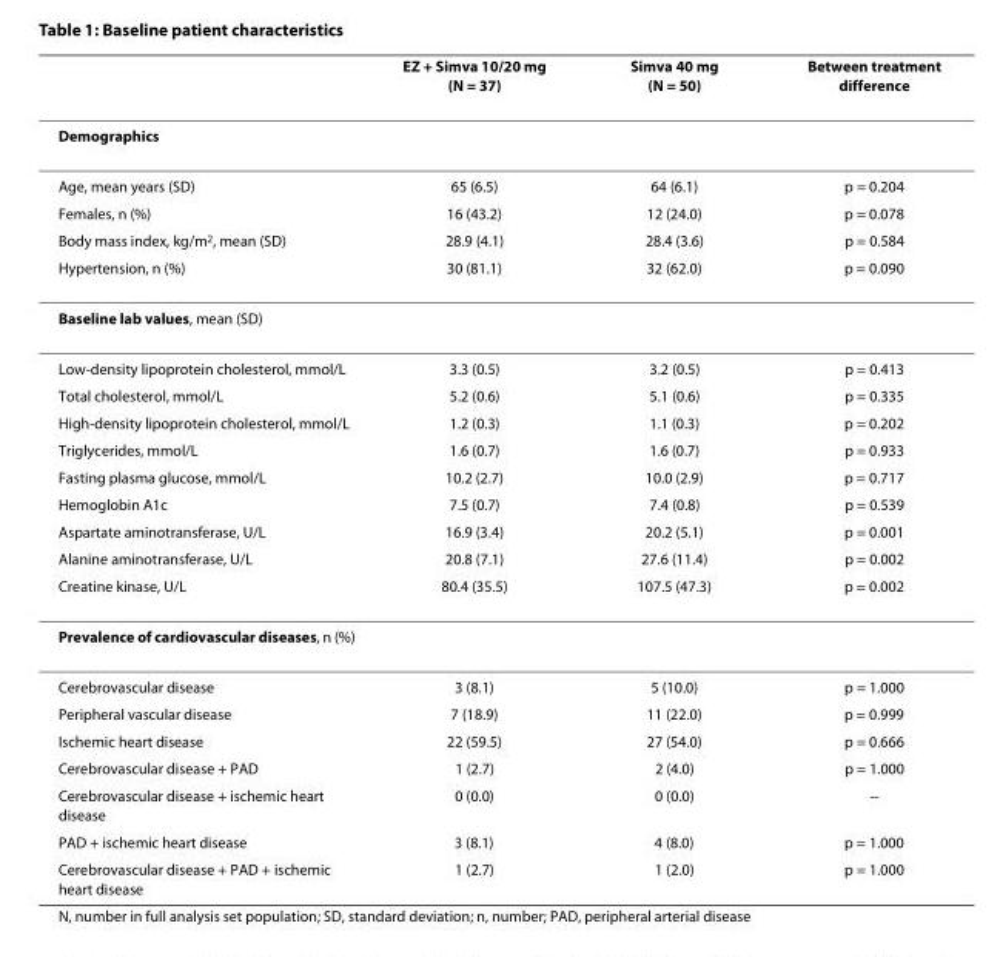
<table><thead><tr><td></td><td>EZ + Simva 10/20 mg (N = 37)</td><td>Simva 40 mg (N = 50)</td><td>Between treatment difference</td></tr></thead><tbody><tr><td colspan="4">Demographics</td></tr><tr><td>Age, mean years (SD)</td><td>65 (6.5)</td><td>64 (6.1)</td><td>p = 0.204</td></tr><tr><td>Females, n (%)</td><td>16 (43.2)</td><td>12 (24.0)</td><td>p = 0.078</td></tr><tr><td>Body mass index, kg/m<sup>2</sup>, mean (SD)</td><td>28.9 (4.1)</td><td>28.4 (3.6)</td><td>p = 0.584</td></tr><tr><td>Hypertension, n (%)</td><td>30 (81.1)</td><td>32 (62.0)</td><td>p = 0.090</td></tr><tr><td colspan="4">Baseline lab values, mean (SD)</td></tr><tr><td>Low-density lipoprotein cholesterol, mmol/L</td><td>3.3 (0.5)</td><td>3.2 (0.5)</td><td>p = 0.413</td></tr><tr><td>Total cholesterol, mmol/L</td><td>5.2 (0.6)</td><td>5.1 (0.6)</td><td>p = 0.335</td></tr><tr><td>High-density lipoprotein cholesterol, mmol/L</td><td>1.2 (0.3)</td><td>1.1 (0.3)</td><td>p = 0.202</td></tr><tr><td>Triglycerides, mmol/L</td><td>1.6 (0.7)</td><td>1.6 (0.7)</td><td>p = 0.933</td></tr><tr><td>Fasting plasma glucose, mmol/L</td><td>10.2 (2.7)</td><td>10.0 (2.9)</td><td>p = 0.717</td></tr><tr><td>Hemoglobin A1c</td><td>7.5 (0.7)</td><td>7.4 (0.8)</td><td>p = 0.539</td></tr><tr><td>Aspartate aminotransferase, U/L</td><td>16.9 (3.4)</td><td>20.2 (5.1)</td><td>p = 0.001</td></tr><tr><td>Alanine aminotransferase, U/L</td><td>20.8 (7.1)</td><td>27.6 (11.4)</td><td>p = 0.002</td></tr><tr><td>Creatine kinase, U/L</td><td>80.4 (35.5)</td><td>107.5 (47.3)</td><td>p = 0.002</td></tr><tr><td colspan="4">Prevalence of cardiovascular diseases, n (%)</td></tr><tr><td>Cerebrovascular disease</td><td>3 (8.1)</td><td>5 (10.0)</td><td>p = 1.000</td></tr><tr><td>Peripheral vascular disease</td><td>7 (18.9)</td><td>11 (22.0)</td><td>p = 0.999</td></tr><tr><td>Ischemic heart disease</td><td>22 (59.5)</td><td>27 (54.0)</td><td>p = 0.666</td></tr><tr><td>Cerebrovascular disease + PAD</td><td>1 (2.7)</td><td>2 (4.0)</td><td>p = 1.000</td></tr><tr><td>Cerebrovascular disease + ischemic heart disease</td><td>0 (0.0)</td><td>0 (0.0)</td><td>--</td></tr><tr><td>PAD + ischemic heart disease</td><td>3 (8.1)</td><td>4 (8.0)</td><td>p = 1.000</td></tr><tr><td>Cerebrovascular disease + PAD + ischemic heart disease</td><td>1 (2.7)</td><td>1 (2.0)</td><td>p = 1.000</td></tr></tbody></table>